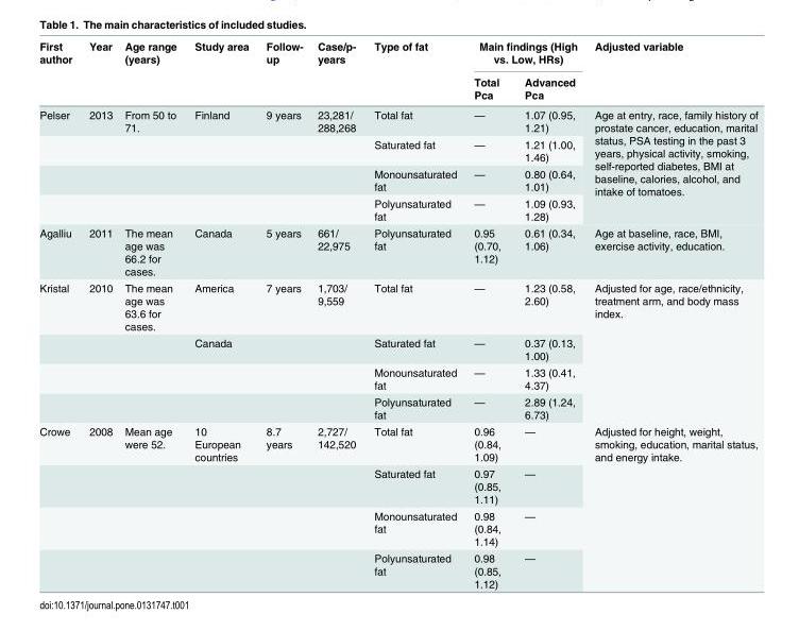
<table><thead><tr><td rowspan="2">First author</td><td rowspan="2">Year</td><td rowspan="2">Age range (years)</td><td rowspan="2">Study area</td><td rowspan="2">Follow- up</td><td rowspan="2">Case/p- years</td><td rowspan="2">Type of fat</td><td colspan="2">Main findings (High vs. Low, HRs)</td><td rowspan="2">Adjusted variable</td></tr><tr><td>Total Pca</td><td>Advanced Pca</td></tr></thead><tbody><tr><td rowspan="4">Pelser</td><td>2013</td><td>From 50 to 71.</td><td>Finland</td><td>9 years</td><td>23,281/ 288,268</td><td>Total fat</td><td>—</td><td>1.07 (0.95, 1.21)</td><td rowspan="4">Age at entry, race, family history of prostate cancer, education, marital status, PSA testing in the past 3 years, physical activity, smoking, self-reported diabetes, BMI at baseline, calories, alcohol, and intake of tomatoes.</td></tr><tr><td></td><td></td><td></td><td></td><td></td><td>Saturated fat</td><td>—</td><td>1.21 (1.00, 1.46)</td></tr><tr><td></td><td></td><td></td><td></td><td></td><td>Monounsaturated fat</td><td>—</td><td>0.80 (0.64, 1.01)</td></tr><tr><td></td><td></td><td></td><td></td><td></td><td>Polyunsaturated fat</td><td>—</td><td>1.09 (0.93, 1.28)</td></tr><tr><td>Agalliu</td><td>2011</td><td>The mean age was 66.2 for cases.</td><td>Canada</td><td>5 years</td><td>661/ 22,975</td><td>Polyunsaturated fat</td><td>0.95 (0.70, 1.12)</td><td>0.61 (0.34, 1.06)</td><td>Age at baseline, race, BMI, exercise activity, education.</td></tr><tr><td rowspan="4">Kristal</td><td>2010</td><td>The mean age was 63.6 for cases.</td><td>America</td><td>7 years</td><td>1,703/ 9,559</td><td>Total fat</td><td>—</td><td>1.23 (0.58, 2.60)</td><td rowspan="4">Adjusted for age, race/ethnicity, treatment arm, and body mass index.</td></tr><tr><td></td><td></td><td>Canada</td><td></td><td></td><td>Saturated fat</td><td>—</td><td>0.37 (0.13, 1.00)</td></tr><tr><td></td><td></td><td></td><td></td><td></td><td>Monounsaturated fat</td><td>—</td><td>1.33 (0.41, 4.37)</td></tr><tr><td></td><td></td><td></td><td></td><td></td><td>Polyunsaturated fat</td><td>—</td><td>2.89 (1.24, 6.73)</td></tr><tr><td rowspan="4">Crowe</td><td>2008</td><td>Mean age were 52.</td><td>10 European countries</td><td>8.7 years</td><td>2,727/ 142,520</td><td>Total fat</td><td>0.96 (0.84, 1.09)</td><td>—</td><td rowspan="4">Adjusted for height, weight, smoking, education, marital status, and energy intake.</td></tr><tr><td></td><td></td><td></td><td></td><td></td><td>Saturated fat</td><td>0.97 (0.85, 1.11)</td><td>—</td></tr><tr><td></td><td></td><td></td><td></td><td></td><td>Monounsaturated fat</td><td>0.98 (0.84, 1.14)</td><td>—</td></tr><tr><td></td><td></td><td></td><td></td><td></td><td>Polyunsaturated fat</td><td>0.98 (0.85, 1.12)</td><td>—</td></tr></tbody></table>